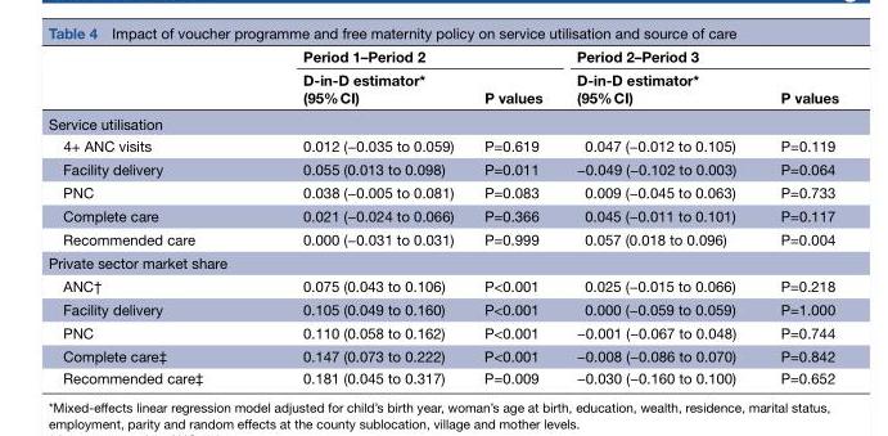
<table><thead><tr><td rowspan="2"></td><td colspan="2">Period 1–Period 2</td><td colspan="2">Period 2–Period 3</td></tr><tr><td>D-in-D estimator* (95% CI)</td><td>P values</td><td>D-in-D estimator* (95% CI)</td><td>P values</td></tr></thead><tbody><tr><td colspan="5">Service utilisation</td></tr><tr><td>4+ ANC visits</td><td>0.012 (−0.035 to 0.059)</td><td>P=0.619</td><td>0.047 (−0.012 to 0.105)</td><td>P=0.119</td></tr><tr><td>Facility delivery</td><td>0.055 (0.013 to 0.098)</td><td>P=0.011</td><td>−0.049 (−0.102 to 0.003)</td><td>P=0.064</td></tr><tr><td>PNC</td><td>0.038 (−0.005 to 0.081)</td><td>P=0.083</td><td>0.009 (−0.045 to 0.063)</td><td>P=0.733</td></tr><tr><td>Complete care</td><td>0.021 (−0.024 to 0.066)</td><td>P=0.366</td><td>0.045 (−0.011 to 0.101)</td><td>P=0.117</td></tr><tr><td>Recommended care</td><td>0.000 (−0.031 to 0.031)</td><td>P=0.999</td><td>0.057 (0.018 to 0.096)</td><td>P=0.004</td></tr><tr><td colspan="5">Private sector market share</td></tr><tr><td>ANC†</td><td>0.075 (0.043 to 0.106)</td><td>P&lt;0.001</td><td>0.025 (−0.015 to 0.066)</td><td>P=0.218</td></tr><tr><td>Facility delivery</td><td>0.105 (0.049 to 0.160)</td><td>P&lt;0.001</td><td>0.000 (−0.059 to 0.059)</td><td>P=1.000</td></tr><tr><td>PNC</td><td>0.110 (0.058 to 0.162)</td><td>P&lt;0.001</td><td>−0.001 (−0.067 to 0.048)</td><td>P=0.744</td></tr><tr><td>Complete care‡</td><td>0.147 (0.073 to 0.222)</td><td>P&lt;0.001</td><td>−0.008 (−0.086 to 0.070)</td><td>P=0.842</td></tr><tr><td>Recommended care‡</td><td>0.181 (0.045 to 0.317)</td><td>P=0.009</td><td>−0.030 (−0.160 to 0.100)</td><td>P=0.652</td></tr></tbody></table>